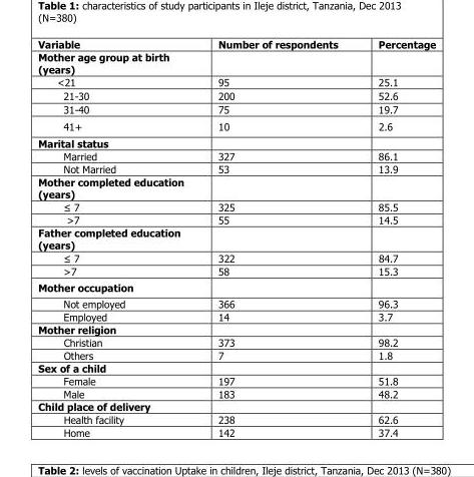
<table><thead><tr><td>Variable</td><td>Number of respondents</td><td>Percentage</td></tr></thead><tbody><tr><td colspan="3">Mother age group at birth (years)</td></tr><tr><td>&lt;21</td><td>95</td><td>25.1</td></tr><tr><td>21-30</td><td>200</td><td>52.6</td></tr><tr><td>31-40</td><td>75</td><td>19.7</td></tr><tr><td>41+</td><td>10</td><td>2.6</td></tr><tr><td colspan="3">Marital status</td></tr><tr><td>Married</td><td>327</td><td>86.1</td></tr><tr><td>Not Married</td><td>53</td><td>13.9</td></tr><tr><td colspan="3">Mother completed education (years)</td></tr><tr><td>≤ 7</td><td>325</td><td>85.5</td></tr><tr><td>&gt;7</td><td>55</td><td>14.5</td></tr><tr><td colspan="3">Father completed education (years)</td></tr><tr><td>≤ 7</td><td>322</td><td>84.7</td></tr><tr><td>&gt;7</td><td>58</td><td>15.3</td></tr><tr><td colspan="3">Mother occupation</td></tr><tr><td>Not employed</td><td>366</td><td>96.3</td></tr><tr><td>Employed</td><td>14</td><td>3.7</td></tr><tr><td colspan="3">Mother religion</td></tr><tr><td>Christian</td><td>373</td><td>98.2</td></tr><tr><td>Others</td><td>7</td><td>1.8</td></tr><tr><td colspan="3">Sex of a child</td></tr><tr><td>Female</td><td>197</td><td>51.8</td></tr><tr><td>Male</td><td>183</td><td>48.2</td></tr><tr><td colspan="3">Child place of delivery</td></tr><tr><td>Health facility</td><td>238</td><td>62.6</td></tr><tr><td>Home</td><td>142</td><td>37.4</td></tr></tbody></table>